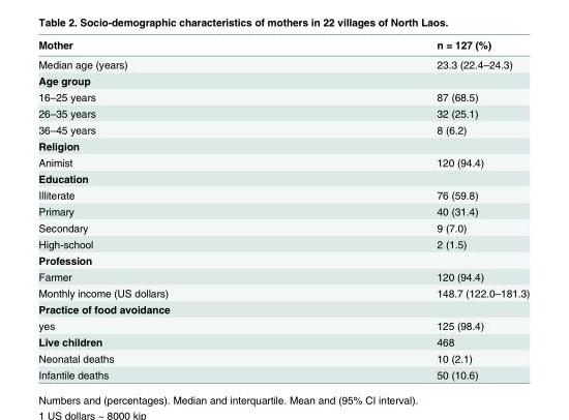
<table><thead><tr><td>Mother</td><td>n = 127 (%)</td></tr></thead><tbody><tr><td>Median age (years)</td><td>23.3 (22.4–24.3)</td></tr><tr><td colspan="2">Age group</td></tr><tr><td>16–25 years</td><td>87 (68.5)</td></tr><tr><td>26–35 years</td><td>32 (25.1)</td></tr><tr><td>36–45 years</td><td>8 (6.2)</td></tr><tr><td colspan="2">Religion</td></tr><tr><td>Animist</td><td>120 (94.4)</td></tr><tr><td colspan="2">Education</td></tr><tr><td>Illiterate</td><td>76 (59.8)</td></tr><tr><td>Primary</td><td>40 (31.4)</td></tr><tr><td>Secondary</td><td>9 (7.0)</td></tr><tr><td>High-school</td><td>2 (1.5)</td></tr><tr><td colspan="2">Profession</td></tr><tr><td>Farmer</td><td>120 (94.4)</td></tr><tr><td>Monthly income (US dollars)</td><td>148.7 (122.0–181.3)</td></tr><tr><td colspan="2">Practice of food avoidance</td></tr><tr><td>yes</td><td>125 (98.4)</td></tr><tr><td>Live children</td><td>468</td></tr><tr><td>Neonatal deaths</td><td>10 (2.1)</td></tr><tr><td>Infantile deaths</td><td>50 (10.6)</td></tr></tbody></table>